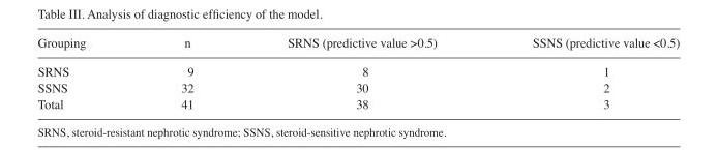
<table><thead><tr><td>Grouping</td><td>n</td><td>SRNS (predictive value &gt;0.5)</td><td>SSNS (predictive value &lt;0.5)</td></tr></thead><tbody><tr><td>SRNS</td><td>9</td><td>8</td><td>1</td></tr><tr><td>SSNS</td><td>32</td><td>30</td><td>2</td></tr><tr><td>Total</td><td>41</td><td>38</td><td>3</td></tr></tbody></table>